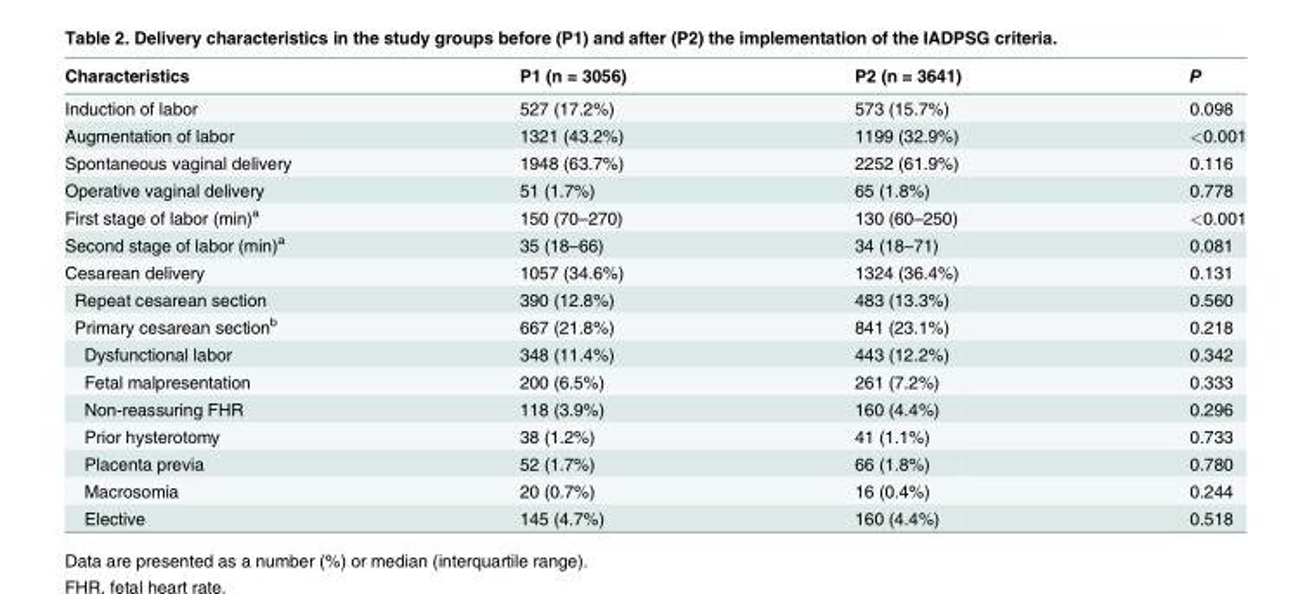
<table><thead><tr><td>Characteristics</td><td>P1 (n = 3056)</td><td>P2 (n = 3641)</td><td>P</td></tr></thead><tbody><tr><td>Induction of labor</td><td>527 (17.2%)</td><td>573 (15.7%)</td><td>0.098</td></tr><tr><td>Augmentation of labor</td><td>1321 (43.2%)</td><td>1199 (32.9%)</td><td>&lt;0.001</td></tr><tr><td>Spontaneous vaginal delivery</td><td>1948 (63.7%)</td><td>2252 (61.9%)</td><td>0.116</td></tr><tr><td>Operative vaginal delivery</td><td>51 (1.7%)</td><td>65 (1.8%)</td><td>0.778</td></tr><tr><td>First stage of labor (min)<sup>a</sup></td><td>150 (70–270)</td><td>130 (60–250)</td><td>&lt;0.001</td></tr><tr><td>Second stage of labor (min)<sup>a</sup></td><td>35 (18–66)</td><td>34 (18–71)</td><td>0.081</td></tr><tr><td>Cesarean delivery</td><td>1057 (34.6%)</td><td>1324 (36.4%)</td><td>0.131</td></tr><tr><td>Repeat cesarean section</td><td>390 (12.8%)</td><td>483 (13.3%)</td><td>0.560</td></tr><tr><td>Primary cesarean section<sup>b</sup></td><td>667 (21.8%)</td><td>841 (23.1%)</td><td>0.218</td></tr><tr><td>Dysfunctional labor</td><td>348 (11.4%)</td><td>443 (12.2%)</td><td>0.342</td></tr><tr><td>Fetal malpresentation</td><td>200 (6.5%)</td><td>261 (7.2%)</td><td>0.333</td></tr><tr><td>Non-reassuring FHR</td><td>118 (3.9%)</td><td>160 (4.4%)</td><td>0.296</td></tr><tr><td>Prior hysterotomy</td><td>38 (1.2%)</td><td>41 (1.1%)</td><td>0.733</td></tr><tr><td>Placenta previa</td><td>52 (1.7%)</td><td>66 (1.8%)</td><td>0.780</td></tr><tr><td>Macrosomia</td><td>20 (0.7%)</td><td>16 (0.4%)</td><td>0.244</td></tr><tr><td>Elective</td><td>145 (4.7%)</td><td>160 (4.4%)</td><td>0.518</td></tr></tbody></table>